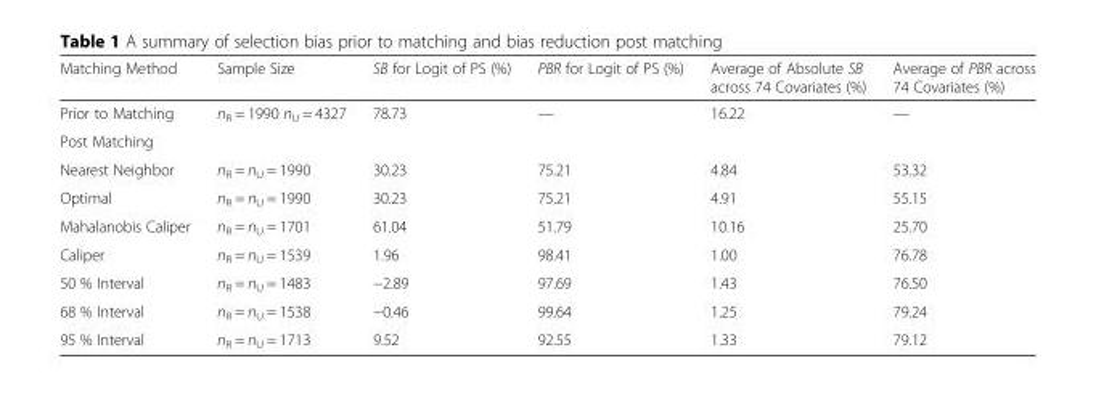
<table><thead><tr><td>Matching Method</td><td>Sample Size</td><td>SB for Logit of PS (%)</td><td>PBR for Logit of PS (%)</td><td>Average of Absolute SB across 74 Covariates (%)</td><td>Average of PBR across 74 Covariates (%)</td></tr></thead><tbody><tr><td>Prior to Matching</td><td rowspan="2">n<sub>R</sub> = 1990 n<sub>U</sub> = 4327</td><td rowspan="2">78.73</td><td rowspan="2">—</td><td rowspan="2">16.22</td><td rowspan="2">—</td></tr><tr><td>Post Matching</td></tr><tr><td>Nearest Neighbor</td><td>n<sub>R</sub> = n<sub>U</sub> = 1990</td><td>30.23</td><td>75.21</td><td>4.84</td><td>53.32</td></tr><tr><td>Optimal</td><td>n<sub>R</sub> = n<sub>U</sub> = 1990</td><td>30.23</td><td>75.21</td><td>4.91</td><td>55.15</td></tr><tr><td>Mahalanobis Caliper</td><td>n<sub>R</sub> = n<sub>U</sub> = 1701</td><td>61.04</td><td>51.79</td><td>10.16</td><td>25.70</td></tr><tr><td>Caliper</td><td>n<sub>R</sub> = n<sub>U</sub> = 1539</td><td>1.96</td><td>98.41</td><td>1.00</td><td>76.78</td></tr><tr><td>50 % Interval</td><td>n<sub>R</sub> = n<sub>U</sub> = 1483</td><td>−2.89</td><td>97.69</td><td>1.43</td><td>76.50</td></tr><tr><td>68 % Interval</td><td>n<sub>R</sub> = n<sub>U</sub> = 1538</td><td>−0.46</td><td>99.64</td><td>1.25</td><td>79.24</td></tr><tr><td>95 % Interval</td><td>n<sub>R</sub> = n<sub>U</sub> = 1713</td><td>9.52</td><td>92.55</td><td>1.33</td><td>79.12</td></tr></tbody></table>